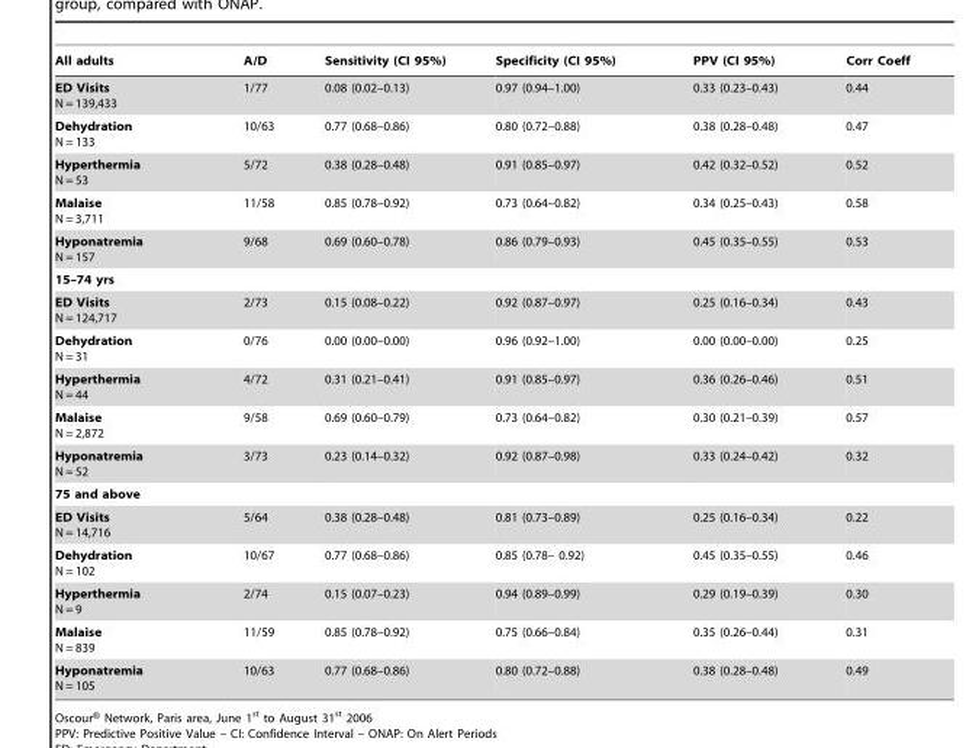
<table><thead><tr><td>All adults</td><td>A/D</td><td>Sensitivity (CI 95%)</td><td>Specificity (CI 95%)</td><td>PPV (CI 95%)</td><td>Corr Coeff</td></tr></thead><tbody><tr><td>ED Visits N = 139,433</td><td>1/77</td><td>0.08 (0.02–0.13)</td><td>0.97 (0.94–1.00)</td><td>0.33 (0.23–0.43)</td><td>0.44</td></tr><tr><td>Dehydration N = 133</td><td>10/63</td><td>0.77 (0.68–0.86)</td><td>0.80 (0.72–0.88)</td><td>0.38 (0.28–0.48)</td><td>0.47</td></tr><tr><td>Hyperthermia N = 53</td><td>5/72</td><td>0.38 (0.28–0.48)</td><td>0.91 (0.85–0.97)</td><td>0.42 (0.32–0.52)</td><td>0.52</td></tr><tr><td>Malaise N = 3,711</td><td>11/58</td><td>0.85 (0.78–0.92)</td><td>0.73 (0.64–0.82)</td><td>0.34 (0.25–0.43)</td><td>0.58</td></tr><tr><td>Hyponatremia N = 157</td><td>9/68</td><td>0.69 (0.60–0.78)</td><td>0.86 (0.79–0.93)</td><td>0.45 (0.35–0.55)</td><td>0.53</td></tr><tr><td colspan="6">15–74 yrs</td></tr><tr><td>ED Visits N = 124,717</td><td>2/73</td><td>0.15 (0.08–0.22)</td><td>0.92 (0.87–0.97)</td><td>0.25 (0.16–0.34)</td><td>0.43</td></tr><tr><td>Dehydration N = 31</td><td>0/76</td><td>0.00 (0.00–0.00)</td><td>0.96 (0.92–1.00)</td><td>0.00 (0.00–0.00)</td><td>0.25</td></tr><tr><td>Hyperthermia N = 44</td><td>4/72</td><td>0.31 (0.21–0.41)</td><td>0.91 (0.85–0.97)</td><td>0.36 (0.26–0.46)</td><td>0.51</td></tr><tr><td>Malaise N = 2,872</td><td>9/58</td><td>0.69 (0.60–0.79)</td><td>0.73 (0.64–0.82)</td><td>0.30 (0.21–0.39)</td><td>0.57</td></tr><tr><td>Hyponatremia N = 52</td><td>3/73</td><td>0.23 (0.14–0.32)</td><td>0.92 (0.87–0.98)</td><td>0.33 (0.24–0.42)</td><td>0.32</td></tr><tr><td colspan="6">75 and above</td></tr><tr><td>ED Visits N = 14,716</td><td>5/64</td><td>0.38 (0.28–0.48)</td><td>0.81 (0.73–0.89)</td><td>0.25 (0.16–0.34)</td><td>0.22</td></tr><tr><td>Dehydration N = 102</td><td>10/67</td><td>0.77 (0.68–0.86)</td><td>0.85 (0.78– 0.92)</td><td>0.45 (0.35–0.55)</td><td>0.46</td></tr><tr><td>Hyperthermia N = 9</td><td>2/74</td><td>0.15 (0.07–0.23)</td><td>0.94 (0.89–0.99)</td><td>0.29 (0.19–0.39)</td><td>0.30</td></tr><tr><td>Malaise N = 839</td><td>11/59</td><td>0.85 (0.78–0.92)</td><td>0.75 (0.66–0.84)</td><td>0.35 (0.26–0.44)</td><td>0.31</td></tr><tr><td>Hyponatremia N = 105</td><td>10/63</td><td>0.77 (0.68–0.86)</td><td>0.80 (0.72–0.88)</td><td>0.38 (0.28–0.48)</td><td>0.49</td></tr></tbody></table>